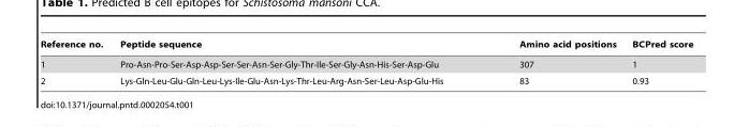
<table><thead><tr><td>Reference no.</td><td>Peptide sequence</td><td>Amino acid positions</td><td>BCPred score</td></tr></thead><tbody><tr><td>1</td><td>Pro-Asn-Pro-Ser-Asp-Asp-Ser-Ser-Asn-Ser-Gly-Thr-Ile-Ser-Gly-Asn-His-Ser-Asp-Glu</td><td>307</td><td>1</td></tr><tr><td>2</td><td>Lys-Gln-Leu-Glu-Gln-Leu-Lys-Ile-Glu-Asn-Lys-Thr-Leu-Arg-Asn-Ser-Leu-Asp-Glu-His</td><td>83</td><td>0.93</td></tr></tbody></table>